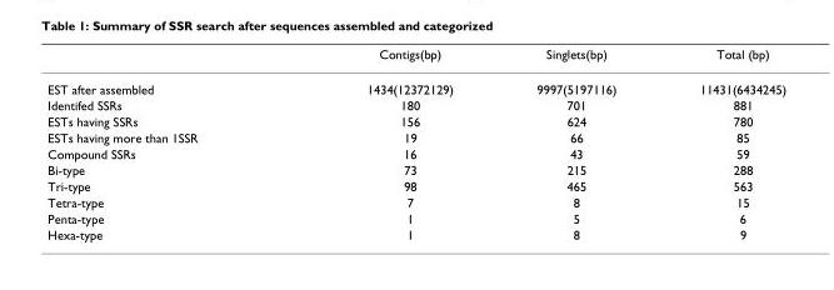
<table><thead><tr><td></td><td>Contigs(bp)</td><td>Singlets(bp)</td><td>Total (bp)</td></tr></thead><tbody><tr><td>EST after assembled</td><td>1434(12372129)</td><td>9997(5197116)</td><td>11431(6434245)</td></tr><tr><td>Identifed SSRs</td><td>180</td><td>701</td><td>881</td></tr><tr><td>ESTs having SSRs</td><td>156</td><td>624</td><td>780</td></tr><tr><td>ESTs having more than 1SSR</td><td>19</td><td>66</td><td>85</td></tr><tr><td>Compound SSRs</td><td>16</td><td>43</td><td>59</td></tr><tr><td>Bi-type</td><td>73</td><td>215</td><td>288</td></tr><tr><td>Tri-type</td><td>98</td><td>465</td><td>563</td></tr><tr><td>Tetra-type</td><td>7</td><td>8</td><td>15</td></tr><tr><td>Penta-type</td><td>1</td><td>5</td><td>6</td></tr><tr><td>Hexa-type</td><td>1</td><td>8</td><td>9</td></tr></tbody></table>